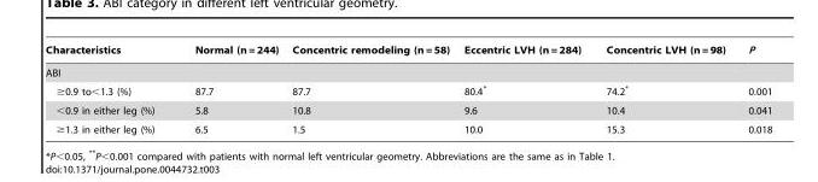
<table><thead><tr><td>Characteristics</td><td>Normal (n = 244)</td><td>Concentric remodeling (n = 58)</td><td>Eccentric LVH (n = 284)</td><td>Concentric LVH (n = 98)</td><td>P</td></tr></thead><tbody><tr><td colspan="6">ABI</td></tr><tr><td>≥0.9 to&lt;1.3 (%)</td><td>87.7</td><td>87.7</td><td>80.4*</td><td>74.2*</td><td>0.001</td></tr><tr><td>&lt;0.9 in either leg (%)</td><td>5.8</td><td>10.8</td><td>9.6</td><td>10.4</td><td>0.041</td></tr><tr><td>≥1.3 in either leg (%)</td><td>6.5</td><td>1.5</td><td>10.0</td><td>15.3</td><td>0.018</td></tr></tbody></table>